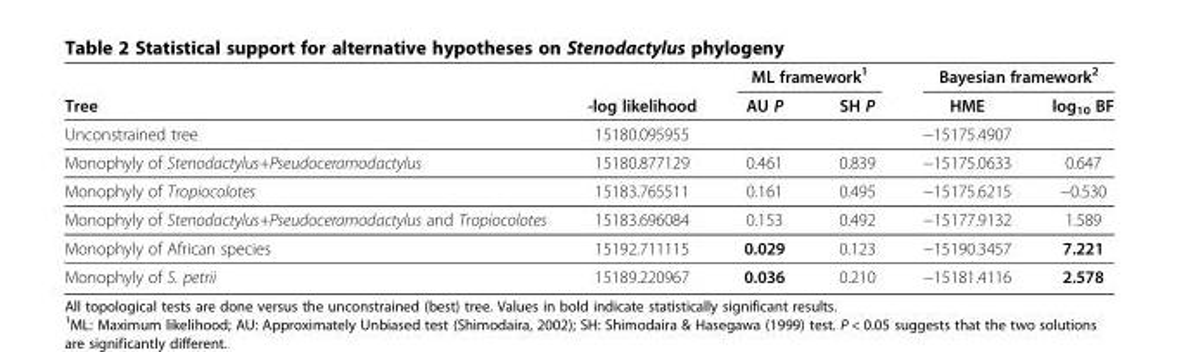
<table><thead><tr><td rowspan="2">Tree</td><td rowspan="2">-log likelihood</td><td colspan="2">ML framework<sup>1</sup></td><td colspan="2">Bayesian framework<sup>2</sup></td></tr><tr><td>AU P</td><td>SH P</td><td>HME</td><td>log<sub>10</sub> BF</td></tr></thead><tbody><tr><td>Unconstrained tree</td><td>15180.095955</td><td></td><td></td><td>−15175.4907</td><td></td></tr><tr><td>Monophyly of Stenodactylus+Pseudoceramodactylus</td><td>15180.877129</td><td>0.461</td><td>0.839</td><td>−15175.0633</td><td>0.647</td></tr><tr><td>Monophyly of Tropiocolotes</td><td>15183.765511</td><td>0.161</td><td>0.495</td><td>−15175.6215</td><td>−0.530</td></tr><tr><td>Monophyly of Stenodactylus+Pseudoceramodactylus and Tropiocolotes</td><td>15183.696084</td><td>0.153</td><td>0.492</td><td>−15177.9132</td><td>1.589</td></tr><tr><td>Monophyly of African species</td><td>15192.711115</td><td>0.029</td><td>0.123</td><td>−15190.3457</td><td>7.221</td></tr><tr><td>Monophyly of S. petrii</td><td>15189.220967</td><td>0.036</td><td>0.210</td><td>−15181.4116</td><td>2.578</td></tr></tbody></table>